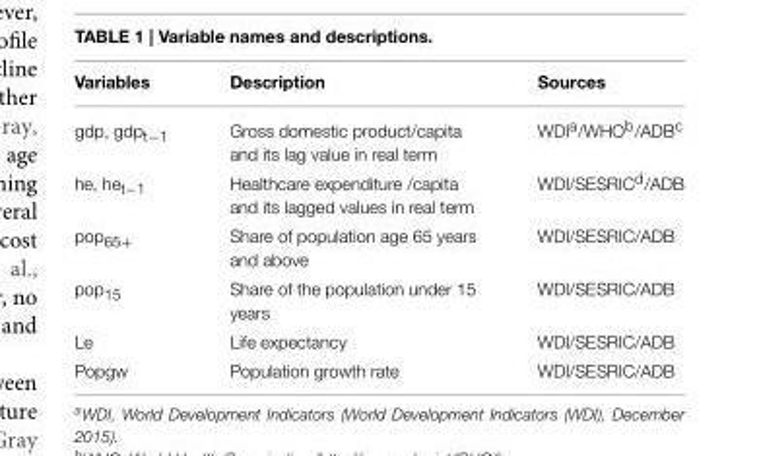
<table><thead><tr><td>Variables</td><td>Description</td><td>Sources</td></tr></thead><tbody><tr><td>gdp, gdp<sub>t−1</sub></td><td>Gross domestic product/capita and its lag value in real term</td><td>WDI<sup>a</sup>/WHO<sup>b</sup>/ADB<sup>c</sup></td></tr><tr><td>he, he<sub>t−1</sub></td><td>Healthcare expenditure /capita and its lagged values in real term</td><td>WDI/SESRIC<sup>d</sup>/ADB</td></tr><tr><td>pop<sub>65+</sub></td><td>Share of population age 65 years and above</td><td>WDI/SESRIC/ADB</td></tr><tr><td>pop<sub>15</sub></td><td>Share of the population under 15 years</td><td>WDI/SESRIC/ADB</td></tr><tr><td>Le</td><td>Life expectancy</td><td>WDI/SESRIC/ADB</td></tr><tr><td>Popgw</td><td>Population growth rate</td><td>WDI/SESRIC/ADB</td></tr></tbody></table>